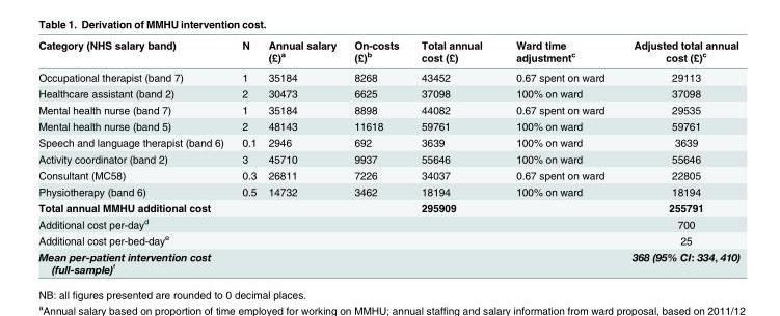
<table><thead><tr><td>Category (NHS salary band)</td><td>N</td><td>Annual salary (£)<sup>a</sup></td><td>On-costs (£)<sup>b</sup></td><td>Total annual cost (£)</td><td>Ward time adjustment<sup>c</sup></td><td>Adjusted total annual cost (£)<sup>c</sup></td></tr></thead><tbody><tr><td>Occupational therapist (band 7)</td><td>1</td><td>35184</td><td>8268</td><td>43452</td><td>0.67 spent on ward</td><td>29113</td></tr><tr><td>Healthcare assistant (band 2)</td><td>2</td><td>30473</td><td>6625</td><td>37098</td><td>100% on ward</td><td>37098</td></tr><tr><td>Mental health nurse (band 7)</td><td>1</td><td>35184</td><td>8898</td><td>44082</td><td>0.67 spent on ward</td><td>29535</td></tr><tr><td>Mental health nurse (band 5)</td><td>2</td><td>48143</td><td>11618</td><td>59761</td><td>100% on ward</td><td>59761</td></tr><tr><td>Speech and language therapist (band 6)</td><td>0.1</td><td>2946</td><td>692</td><td>3639</td><td>100% on ward</td><td>3639</td></tr><tr><td>Activity coordinator (band 2)</td><td>3</td><td>45710</td><td>9937</td><td>55646</td><td>100% on ward</td><td>55646</td></tr><tr><td>Consultant (MC58)</td><td>0.3</td><td>26811</td><td>7226</td><td>34037</td><td>0.67 spent on ward</td><td>22805</td></tr><tr><td>Physiotherapy (band 6)</td><td>0.5</td><td>14732</td><td>3462</td><td>18194</td><td>100% on ward</td><td>18194</td></tr><tr><td>Total annual MMHU additional cost</td><td></td><td></td><td></td><td>295909</td><td></td><td>255791</td></tr><tr><td>Additional cost per-day<sup>d</sup></td><td></td><td></td><td></td><td></td><td></td><td>700</td></tr><tr><td>Additional cost per-bed-day<sup>e</sup></td><td></td><td></td><td></td><td></td><td></td><td>25</td></tr><tr><td>Mean per-patient intervention cost (full-sample)<sup>f</sup></td><td></td><td></td><td></td><td></td><td></td><td>368 (95% CI: 334, 410)</td></tr></tbody></table>